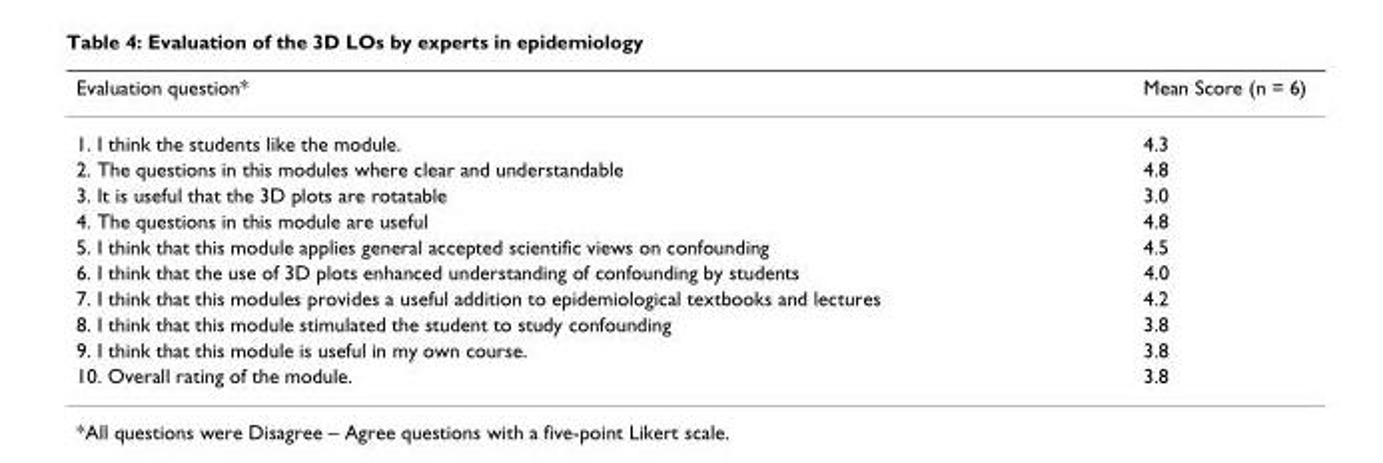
<table><thead><tr><td>Evaluation question*</td><td>Mean Score (n = 6)</td></tr></thead><tbody><tr><td>1. I think the students like the module.</td><td>4.3</td></tr><tr><td>2. The questions in this modules where clear and understandable</td><td>4.8</td></tr><tr><td>3. It is useful that the 3D plots are rotatable</td><td>3.0</td></tr><tr><td>4. The questions in this module are useful</td><td>4.8</td></tr><tr><td>5. I think that this module applies general accepted scientific views on confounding</td><td>4.5</td></tr><tr><td>6. I think that the use of 3D plots enhanced understanding of confounding by students</td><td>4.0</td></tr><tr><td>7. I think that this modules provides a useful addition to epidemiological textbooks and lectures</td><td>4.2</td></tr><tr><td>8. I think that this module stimulated the student to study confounding</td><td>3.8</td></tr><tr><td>9. I think that this module is useful in my own course.</td><td>3.8</td></tr><tr><td>10. Overall rating of the module.</td><td>3.8</td></tr></tbody></table>